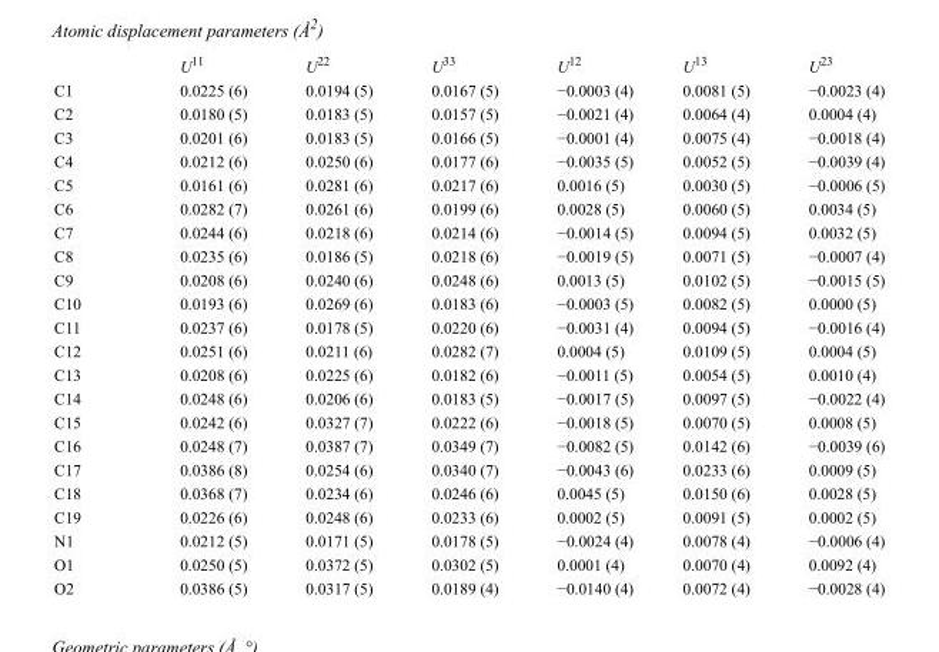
<table><thead><tr><td></td><td>U<sup>11</sup></td><td>U<sup>22</sup></td><td>U<sup>33</sup></td><td>U<sup>12</sup></td><td>U<sup>13</sup></td><td>U<sup>23</sup></td></tr></thead><tbody><tr><td>C1</td><td>0.0225 (6)</td><td>0.0194 (5)</td><td>0.0167 (5)</td><td>−0.0003 (4)</td><td>0.0081 (5)</td><td>−0.0023 (4)</td></tr><tr><td>C2</td><td>0.0180 (5)</td><td>0.0183 (5)</td><td>0.0157 (5)</td><td>−0.0021 (4)</td><td>0.0064 (4)</td><td>0.0004 (4)</td></tr><tr><td>C3</td><td>0.0201 (6)</td><td>0.0183 (5)</td><td>0.0166 (5)</td><td>−0.0001 (4)</td><td>0.0075 (4)</td><td>−0.0018 (4)</td></tr><tr><td>C4</td><td>0.0212 (6)</td><td>0.0250 (6)</td><td>0.0177 (6)</td><td>−0.0035 (5)</td><td>0.0052 (5)</td><td>−0.0039 (4)</td></tr><tr><td>C5</td><td>0.0161 (6)</td><td>0.0281 (6)</td><td>0.0217 (6)</td><td>0.0016 (5)</td><td>0.0030 (5)</td><td>−0.0006 (5)</td></tr><tr><td>C6</td><td>0.0282 (7)</td><td>0.0261 (6)</td><td>0.0199 (6)</td><td>0.0028 (5)</td><td>0.0060 (5)</td><td>0.0034 (5)</td></tr><tr><td>C7</td><td>0.0244 (6)</td><td>0.0218 (6)</td><td>0.0214 (6)</td><td>−0.0014 (5)</td><td>0.0094 (5)</td><td>0.0032 (5)</td></tr><tr><td>C8</td><td>0.0235 (6)</td><td>0.0186 (5)</td><td>0.0218 (6)</td><td>−0.0019 (5)</td><td>0.0071 (5)</td><td>−0.0007 (4)</td></tr><tr><td>C9</td><td>0.0208 (6)</td><td>0.0240 (6)</td><td>0.0248 (6)</td><td>0.0013 (5)</td><td>0.0102 (5)</td><td>−0.0015 (5)</td></tr><tr><td>C10</td><td>0.0193 (6)</td><td>0.0269 (6)</td><td>0.0183 (6)</td><td>−0.0003 (5)</td><td>0.0082 (5)</td><td>0.0000 (5)</td></tr><tr><td>C11</td><td>0.0237 (6)</td><td>0.0178 (5)</td><td>0.0220 (6)</td><td>−0.0031 (4)</td><td>0.0094 (5)</td><td>−0.0016 (4)</td></tr><tr><td>C12</td><td>0.0251 (6)</td><td>0.0211 (6)</td><td>0.0282 (7)</td><td>0.0004 (5)</td><td>0.0109 (5)</td><td>0.0004 (5)</td></tr><tr><td>C13</td><td>0.0208 (6)</td><td>0.0225 (6)</td><td>0.0182 (6)</td><td>−0.0011 (5)</td><td>0.0054 (5)</td><td>0.0010 (4)</td></tr><tr><td>C14</td><td>0.0248 (6)</td><td>0.0206 (6)</td><td>0.0183 (5)</td><td>−0.0017 (5)</td><td>0.0097 (5)</td><td>−0.0022 (4)</td></tr><tr><td>C15</td><td>0.0242 (6)</td><td>0.0327 (7)</td><td>0.0222 (6)</td><td>−0.0018 (5)</td><td>0.0070 (5)</td><td>0.0008 (5)</td></tr><tr><td>C16</td><td>0.0248 (7)</td><td>0.0387 (7)</td><td>0.0349 (7)</td><td>−0.0082 (5)</td><td>0.0142 (6)</td><td>−0.0039 (6)</td></tr><tr><td>C17</td><td>0.0386 (8)</td><td>0.0254 (6)</td><td>0.0340 (7)</td><td>−0.0043 (6)</td><td>0.0233 (6)</td><td>0.0009 (5)</td></tr><tr><td>C18</td><td>0.0368 (7)</td><td>0.0234 (6)</td><td>0.0246 (6)</td><td>0.0045 (5)</td><td>0.0150 (6)</td><td>0.0028 (5)</td></tr><tr><td>C19</td><td>0.0226 (6)</td><td>0.0248 (6)</td><td>0.0233 (6)</td><td>0.0002 (5)</td><td>0.0091 (5)</td><td>0.0002 (5)</td></tr><tr><td>N1</td><td>0.0212 (5)</td><td>0.0171 (5)</td><td>0.0178 (5)</td><td>−0.0024 (4)</td><td>0.0078 (4)</td><td>−0.0006 (4)</td></tr><tr><td>O1</td><td>0.0250 (5)</td><td>0.0372 (5)</td><td>0.0302 (5)</td><td>0.0001 (4)</td><td>0.0070 (4)</td><td>0.0092 (4)</td></tr><tr><td>O2</td><td>0.0386 (5)</td><td>0.0317 (5)</td><td>0.0189 (4)</td><td>−0.0140 (4)</td><td>0.0072 (4)</td><td>−0.0028 (4)</td></tr></tbody></table>